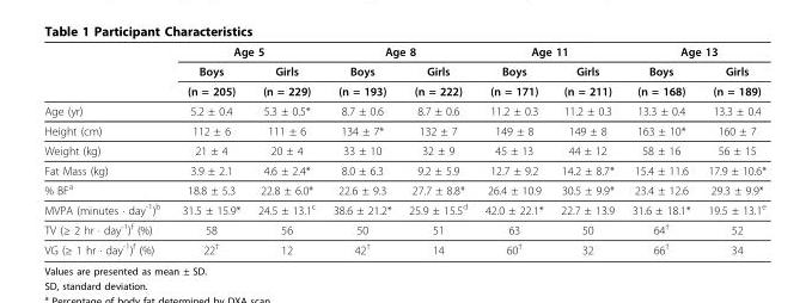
<table><thead><tr><td rowspan="3"></td><td colspan="2">Age 5</td><td colspan="2">Age 8</td><td colspan="2">Age 11</td><td colspan="2">Age 13</td></tr><tr><td rowspan="2">Boys (n = 205)</td><td rowspan="2">Girls (n = 229)</td><td rowspan="2">Boys (n = 193)</td><td rowspan="2">Girls (n = 222)</td><td rowspan="2">Boys (n = 171)</td><td rowspan="2">Girls (n = 211)</td><td rowspan="2">Boys (n = 168)</td><td rowspan="2">Girls (n = 189)</td></tr><tr></tr></thead><tbody><tr><td>Age (yr)</td><td>5.2 ± 0.4</td><td>5.3 ± 0.5*</td><td>8.7 ± 0.6</td><td>8.7 ± 0.6</td><td>11.2 ± 0.3</td><td>11.2 ± 0.3</td><td>13.3 ± 0.4</td><td>13.3 ± 0.4</td></tr><tr><td>Height (cm)</td><td>112 ± 6</td><td>111 ± 6</td><td>134 ± 7*</td><td>132 ± 7</td><td>149 ± 8</td><td>149 ± 8</td><td>163 ± 10*</td><td>160 ± 7</td></tr><tr><td>Weight (kg)</td><td>21 ± 4</td><td>20 ± 4</td><td>33 ± 10</td><td>32 ± 9</td><td>45 ± 13</td><td>44 ± 12</td><td>58 ± 16</td><td>56 ± 15</td></tr><tr><td>Fat Mass (kg)</td><td>3.9 ± 2.1</td><td>4.6 ± 2.4*</td><td>8.0 ± 6.3</td><td>9.2 ± 5.9</td><td>12.7 ± 9.2</td><td>14.2 ± 8.7*</td><td>15.4 ± 11.6</td><td>17.9 ± 10.6*</td></tr><tr><td>% BF<sup>a</sup></td><td>18.8 ± 5.3</td><td>22.8 ± 6.0*</td><td>22.6 ± 9.3</td><td>27.7 ± 8.8*</td><td>26.4 ± 10.9</td><td>30.5 ± 9.9*</td><td>23.4 ± 12.6</td><td>29.3 ± 9.9*</td></tr><tr><td>MVPA (minutes · day<sup>-1</sup>)<sup>b</sup></td><td>31.5 ± 15.9*</td><td>24.5 ± 13.1<sup>c</sup></td><td>38.6 ± 21.2*</td><td>25.9 ± 15.5<sup>d</sup></td><td>42.0 ± 22.1*</td><td>22.7 ± 13.9</td><td>31.6 ± 18.1*</td><td>19.5 ± 13.1<sup>e</sup></td></tr><tr><td>TV (≥ 2 hr · day<sup>-1</sup>)<sup>f</sup> (%)</td><td>58</td><td>56</td><td>50</td><td>51</td><td>63</td><td>50</td><td>64<sup>†</sup></td><td>52</td></tr><tr><td>VG (≥ 1 hr · day<sup>-1</sup>)<sup>f</sup> (%)</td><td>22<sup>†</sup></td><td>12</td><td>42<sup>†</sup></td><td>14</td><td>60<sup>†</sup></td><td>32</td><td>66<sup>†</sup></td><td>34</td></tr></tbody></table>